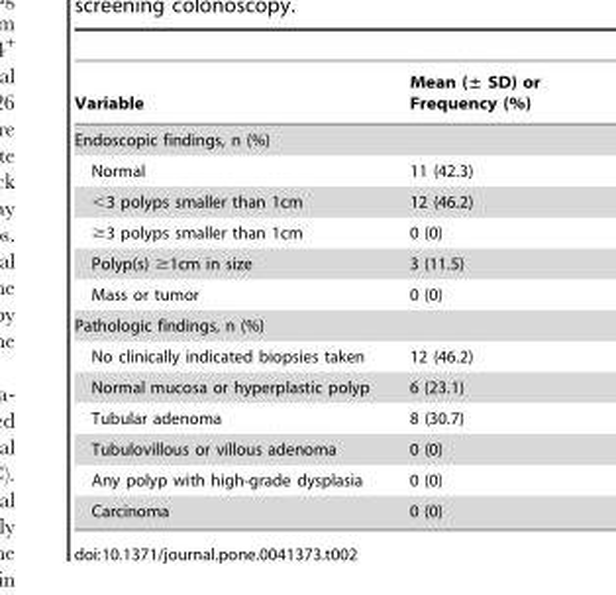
<table><thead><tr><td>Variable</td><td>Mean (± SD) or Frequency (%)</td></tr></thead><tbody><tr><td colspan="2">Endoscopic findings, n (%)</td></tr><tr><td>Normal</td><td>11 (42.3)</td></tr><tr><td>&lt;3 polyps smaller than 1cm</td><td>12 (46.2)</td></tr><tr><td>≥3 polyps smaller than 1cm</td><td>0 (0)</td></tr><tr><td>Polyp(s) ≥1cm in size</td><td>3 (11.5)</td></tr><tr><td>Mass or tumor</td><td>0 (0)</td></tr><tr><td colspan="2">Pathologic findings, n (%)</td></tr><tr><td>No clinically indicated biopsies taken</td><td>12 (46.2)</td></tr><tr><td>Normal mucosa or hyperplastic polyp</td><td>6 (23.1)</td></tr><tr><td>Tubular adenoma</td><td>8 (30.7)</td></tr><tr><td>Tubulovillous or villous adenoma</td><td>0 (0)</td></tr><tr><td>Any polyp with high-grade dysplasia</td><td>0 (0)</td></tr><tr><td>Carcinoma</td><td>0 (0)</td></tr></tbody></table>